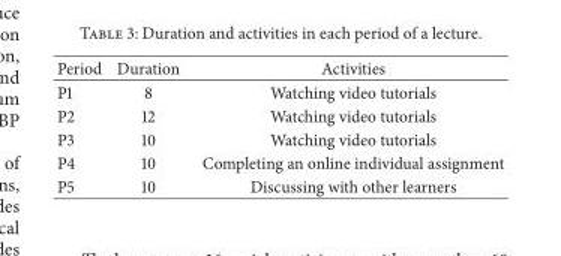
<table><thead><tr><td>Period</td><td>Duration</td><td>Activities</td></tr></thead><tbody><tr><td>P1</td><td>8</td><td>Watching video tutorials</td></tr><tr><td>P2</td><td>12</td><td>Watching video tutorials</td></tr><tr><td>P3</td><td>10</td><td>Watching video tutorials</td></tr><tr><td>P4</td><td>10</td><td>Completing an online individual assignment</td></tr><tr><td>P5</td><td>10</td><td>Discussing with other learners</td></tr></tbody></table>